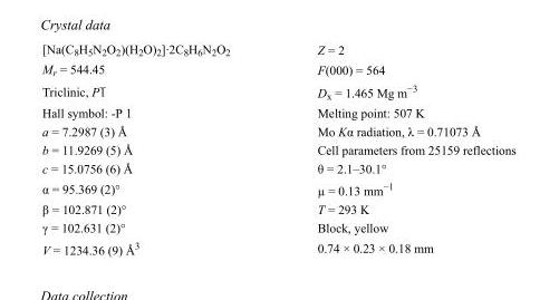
<table><tbody><tr><td>[Na(C<sub>8</sub>H<sub>5</sub>N<sub>2</sub>O<sub>2</sub>)(H<sub>2</sub>O)<sub>2</sub>]·2C<sub>8</sub>H<sub>6</sub>N<sub>2</sub>O<sub>2</sub></td><td>Z = 2</td></tr><tr><td>M<sub>r</sub> = 544.45</td><td>F(000) = 564</td></tr><tr><td>Triclinic, P1</td><td>D<sub>x</sub> = 1.465 Mg m<sup>−3</sup></td></tr><tr><td>Hall symbol: -P 1</td><td>Melting point: 507 K</td></tr><tr><td>a = 7.2987 (3) Å</td><td>Mo Kα radiation, λ = 0.71073 Å</td></tr><tr><td>b = 11.9269 (5) Å</td><td>Cell parameters from 25159 reflections</td></tr><tr><td>c = 15.0756 (6) Å</td><td>θ = 2.1–30.1°</td></tr><tr><td>α = 95.369 (2)°</td><td>µ = 0.13 mm<sup>−1</sup></td></tr><tr><td>β = 102.871 (2)°</td><td>T = 293 K</td></tr><tr><td>γ = 102.631 (2)°</td><td>Block, yellow</td></tr><tr><td>V = 1234.36 (9) Å<sup>3</sup></td><td>0.74 × 0.23 × 0.18 mm</td></tr></tbody></table>